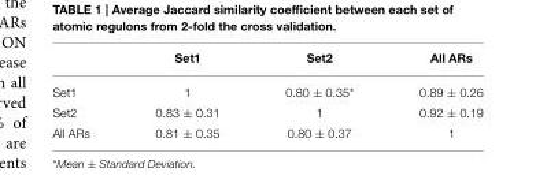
<table><thead><tr><td></td><td>Set1</td><td>Set2</td><td>All ARs</td></tr></thead><tbody><tr><td>Set1</td><td>1</td><td>0.80 ± 0.35*</td><td>0.89 ± 0.26</td></tr><tr><td>Set2</td><td>0.83 ± 0.31</td><td>1</td><td>0.92 ± 0.19</td></tr><tr><td>All ARs</td><td>0.81 ± 0.35</td><td>0.80 ± 0.37</td><td>1</td></tr></tbody></table>